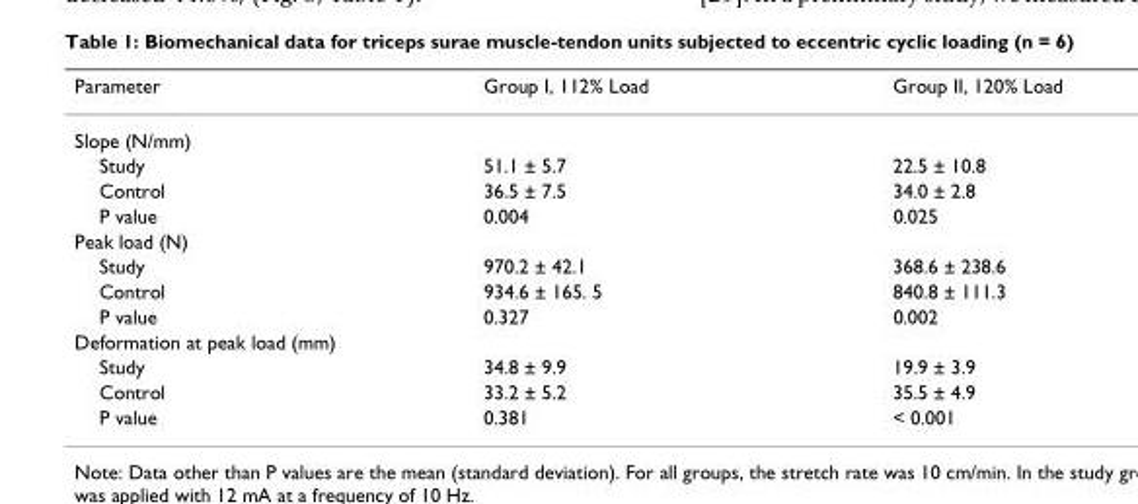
<table><thead><tr><td>Parameter</td><td>Group I, 112% Load</td><td>Group II, 120% Load</td></tr></thead><tbody><tr><td colspan="3">Slope (N/mm)</td></tr><tr><td>Study</td><td>51.1 ± 5.7</td><td>22.5 ± 10.8</td></tr><tr><td>Control</td><td>36.5 ± 7.5</td><td>34.0 ± 2.8</td></tr><tr><td>P value</td><td>0.004</td><td>0.025</td></tr><tr><td colspan="3">Peak load (N)</td></tr><tr><td>Study</td><td>970.2 ± 42.1</td><td>368.6 ± 238.6</td></tr><tr><td>Control</td><td>934.6 ± 165. 5</td><td>840.8 ± 111.3</td></tr><tr><td>P value</td><td>0.327</td><td>0.002</td></tr><tr><td colspan="3">Deformation at peak load (mm)</td></tr><tr><td>Study</td><td>34.8 ± 9.9</td><td>19.9 ± 3.9</td></tr><tr><td>Control</td><td>33.2 ± 5.2</td><td>35.5 ± 4.9</td></tr><tr><td>P value</td><td>0.381</td><td>&lt; 0.001</td></tr></tbody></table>